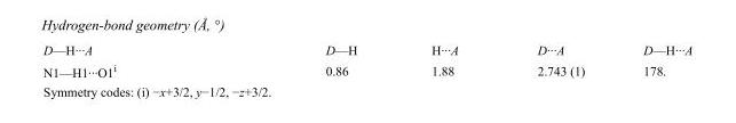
<table><tbody><tr><td>D—H···A</td><td>D—H</td><td>H···A</td><td>D···A</td><td>D—H···A</td></tr><tr><td>N1—H1···O1<sup>i</sup></td><td>0.86</td><td>1.88</td><td>2.743 (1)</td><td>178.</td></tr></tbody></table>